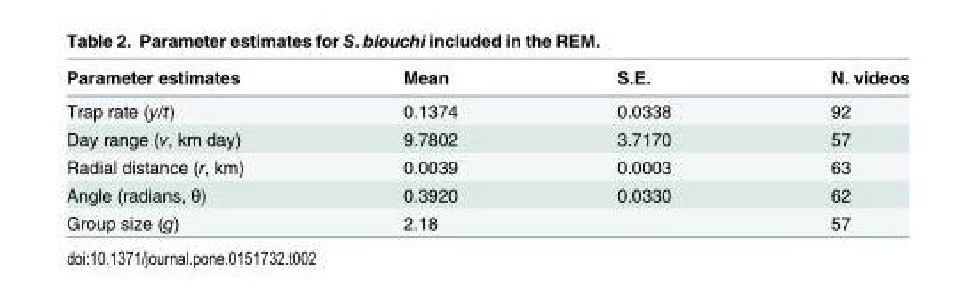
<table><thead><tr><td>Parameter estimates</td><td>Mean</td><td>S.E.</td><td>N. videos</td></tr></thead><tbody><tr><td>Trap rate (y/t)</td><td>0.1374</td><td>0.0338</td><td>92</td></tr><tr><td>Day range (v, km day)</td><td>9.7802</td><td>3.7170</td><td>57</td></tr><tr><td>Radial distance (r, km)</td><td>0.0039</td><td>0.0003</td><td>63</td></tr><tr><td>Angle (radians, θ)</td><td>0.3920</td><td>0.0330</td><td>62</td></tr><tr><td>Group size (g)</td><td>2.18</td><td></td><td>57</td></tr></tbody></table>